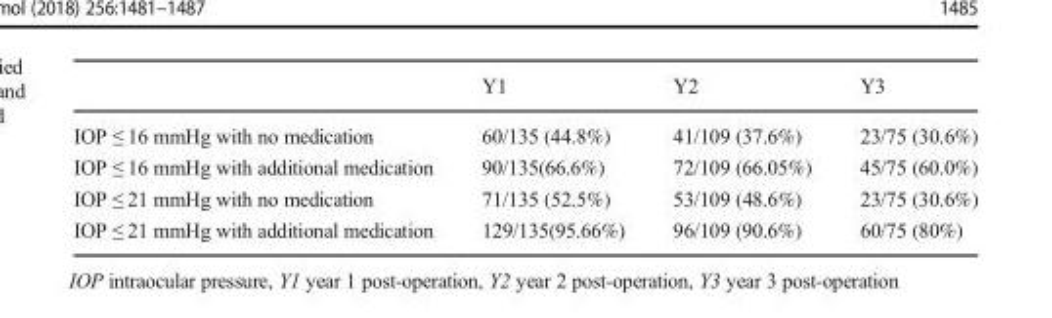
<table><thead><tr><td></td><td>Y1</td><td>Y2</td><td>Y3</td></tr></thead><tbody><tr><td>IOP ≤ 16 mmHg with no medication</td><td>60/135 (44.8%)</td><td>41/109 (37.6%)</td><td>23/75 (30.6%)</td></tr><tr><td>IOP ≤ 16 mmHg with additional medication</td><td>90/135(66.6%)</td><td>72/109 (66.05%)</td><td>45/75 (60.0%)</td></tr><tr><td>IOP ≤ 21 mmHg with no medication</td><td>71/135 (52.5%)</td><td>53/109 (48.6%)</td><td>23/75 (30.6%)</td></tr><tr><td>IOP ≤ 21 mmHg with additional medication</td><td>129/135(95.66%)</td><td>96/109 (90.6%)</td><td>60/75 (80%)</td></tr></tbody></table>